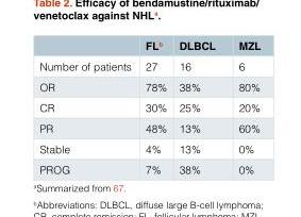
<table><thead><tr><td></td><td>FL<sup>b</sup></td><td>DLBCL</td><td>MZL</td></tr></thead><tbody><tr><td>Number of patients</td><td>27</td><td>16</td><td>6</td></tr><tr><td>OR</td><td>78%</td><td>38%</td><td>80%</td></tr><tr><td>CR</td><td>30%</td><td>25%</td><td>20%</td></tr><tr><td>PR</td><td>48%</td><td>13%</td><td>60%</td></tr><tr><td>Stable</td><td>4%</td><td>13%</td><td>0%</td></tr><tr><td>PROG</td><td>7%</td><td>38%</td><td>0%</td></tr></tbody></table>